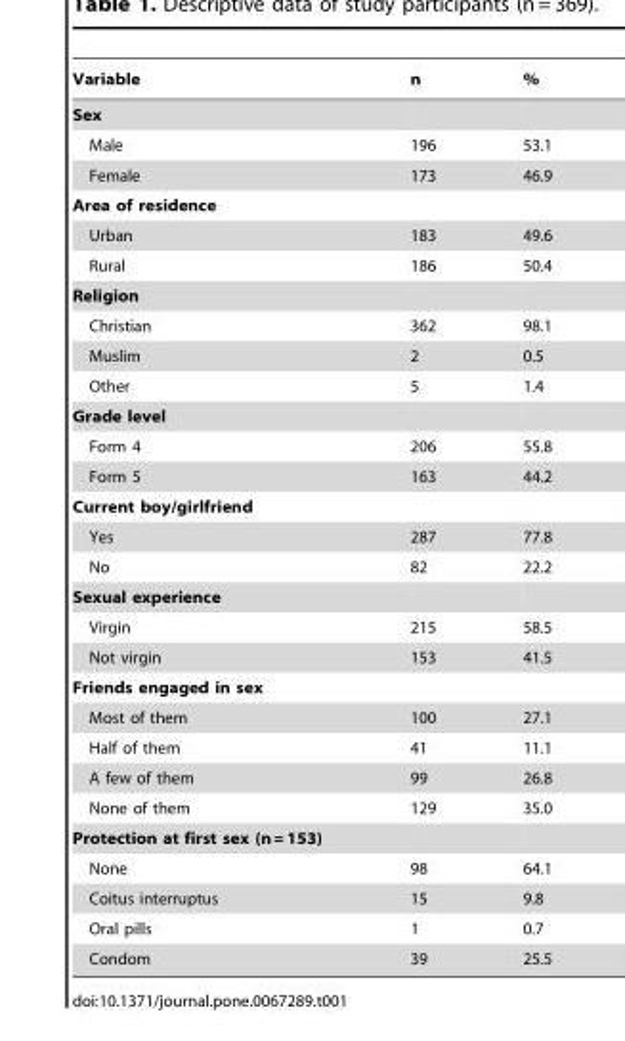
<table><thead><tr><td>Variable</td><td>n</td><td>%</td></tr></thead><tbody><tr><td colspan="3">Sex</td></tr><tr><td>Male</td><td>196</td><td>53.1</td></tr><tr><td>Female</td><td>173</td><td>46.9</td></tr><tr><td colspan="3">Area of residence</td></tr><tr><td>Urban</td><td>183</td><td>49.6</td></tr><tr><td>Rural</td><td>186</td><td>50.4</td></tr><tr><td colspan="3">Religion</td></tr><tr><td>Christian</td><td>362</td><td>98.1</td></tr><tr><td>Muslim</td><td>2</td><td>0.5</td></tr><tr><td>Other</td><td>5</td><td>1.4</td></tr><tr><td colspan="3">Grade level</td></tr><tr><td>Form 4</td><td>206</td><td>55.8</td></tr><tr><td>Form 5</td><td>163</td><td>44.2</td></tr><tr><td colspan="3">Current boy/girlfriend</td></tr><tr><td>Yes</td><td>287</td><td>77.8</td></tr><tr><td>No</td><td>82</td><td>22.2</td></tr><tr><td colspan="3">Sexual experience</td></tr><tr><td>Virgin</td><td>215</td><td>58.5</td></tr><tr><td>Not virgin</td><td>153</td><td>41.5</td></tr><tr><td colspan="3">Friends engaged in sex</td></tr><tr><td>Most of them</td><td>100</td><td>27.1</td></tr><tr><td>Half of them</td><td>41</td><td>11.1</td></tr><tr><td>A few of them</td><td>99</td><td>26.8</td></tr><tr><td>None of them</td><td>129</td><td>35.0</td></tr><tr><td colspan="3">Protection at first sex (n = 153)</td></tr><tr><td>None</td><td>98</td><td>64.1</td></tr><tr><td>Coitus interruptus</td><td>15</td><td>9.8</td></tr><tr><td>Oral pills</td><td>1</td><td>0.7</td></tr><tr><td>Condom</td><td>39</td><td>25.5</td></tr></tbody></table>